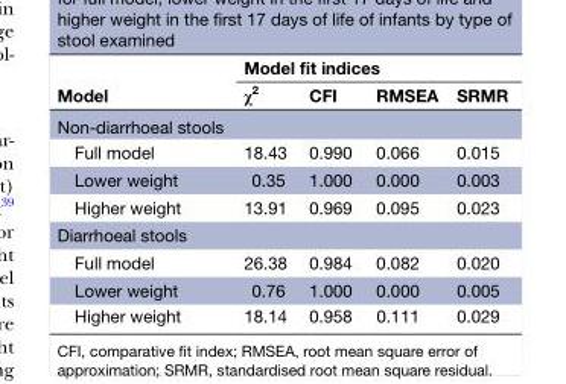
<table><thead><tr><td rowspan="2">Model</td><td colspan="4">Model fit indices</td></tr><tr><td>χ<sup>2</sup></td><td>CFI</td><td>RMSEA</td><td>SRMR</td></tr></thead><tbody><tr><td colspan="5">Non-diarrhoeal stools</td></tr><tr><td>Full model</td><td>18.43</td><td>0.990</td><td>0.066</td><td>0.015</td></tr><tr><td>Lower weight</td><td>0.35</td><td>1.000</td><td>0.000</td><td>0.003</td></tr><tr><td>Higher weight</td><td>13.91</td><td>0.969</td><td>0.095</td><td>0.023</td></tr><tr><td colspan="5">Diarrhoeal stools</td></tr><tr><td>Full model</td><td>26.38</td><td>0.984</td><td>0.082</td><td>0.020</td></tr><tr><td>Lower weight</td><td>0.76</td><td>1.000</td><td>0.000</td><td>0.005</td></tr><tr><td>Higher weight</td><td>18.14</td><td>0.958</td><td>0.111</td><td>0.029</td></tr></tbody></table>